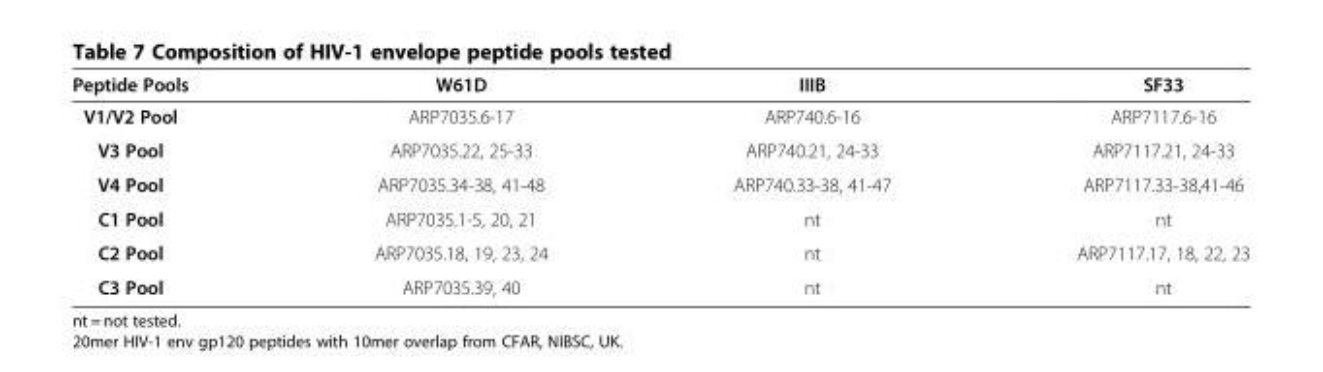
<table><thead><tr><td>Peptide Pools</td><td>W61D</td><td>IIIB</td><td>SF33</td></tr></thead><tbody><tr><td>V1/V2 Pool</td><td>ARP7035.6-17</td><td>ARP740.6-16</td><td>ARP7117.6-16</td></tr><tr><td>V3 Pool</td><td>ARP7035.22, 25-33</td><td>ARP740.21, 24-33</td><td>ARP7117.21, 24-33</td></tr><tr><td>V4 Pool</td><td>ARP7035.34-38, 41-48</td><td>ARP740.33-38, 41-47</td><td>ARP7117.33-38,41-46</td></tr><tr><td>C1 Pool</td><td>ARP7035.1-5, 20, 21</td><td>nt</td><td>nt</td></tr><tr><td>C2 Pool</td><td>ARP7035.18, 19, 23, 24</td><td>nt</td><td>ARP7117.17, 18, 22, 23</td></tr><tr><td>C3 Pool</td><td>ARP7035.39, 40</td><td>nt</td><td>nt</td></tr></tbody></table>